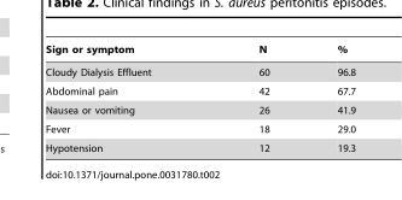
<table><thead><tr><td>Sign or symptom</td><td>N</td><td>%</td></tr></thead><tbody><tr><td>Cloudy Dialysis Effluent</td><td>60</td><td>96.8</td></tr><tr><td>Abdominal pain</td><td>42</td><td>67.7</td></tr><tr><td>Nausea or vomiting</td><td>26</td><td>41.9</td></tr><tr><td>Fever</td><td>18</td><td>29.0</td></tr><tr><td>Hypotension</td><td>12</td><td>19.3</td></tr></tbody></table>